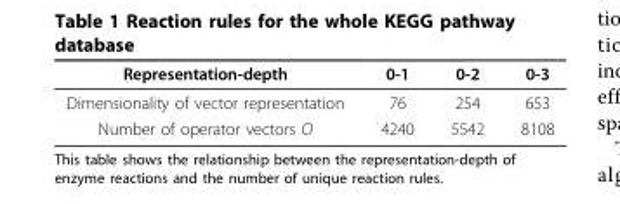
<table><thead><tr><td>Representation-depth</td><td>0-1</td><td>0-2</td><td>0-3</td></tr></thead><tbody><tr><td>Dimensionality of vector representation</td><td>76</td><td>254</td><td>653</td></tr><tr><td>Number of operator vectors O</td><td>4240</td><td>5542</td><td>8108</td></tr></tbody></table>